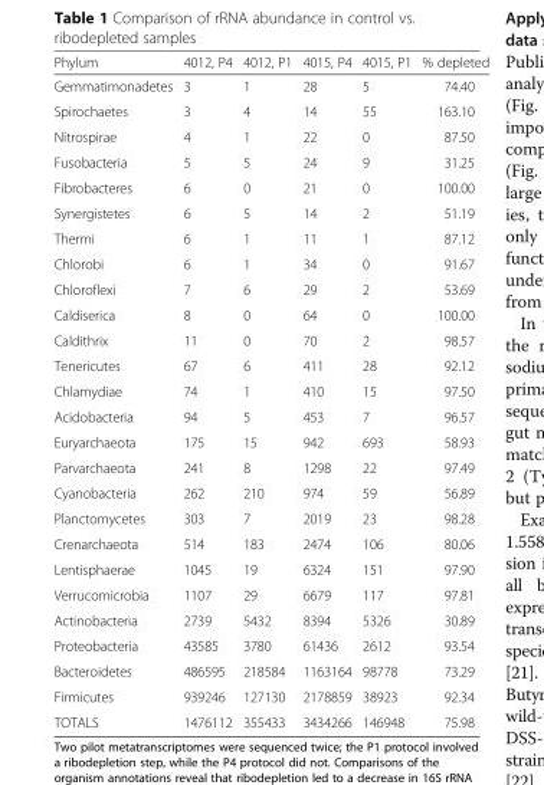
<table><thead><tr><td>Phylum</td><td>4012, P4</td><td>4012, P1</td><td>4015, P4</td><td>4015, P1</td><td>% depleted</td></tr></thead><tbody><tr><td>Gemmatimonadetes</td><td>3</td><td>1</td><td>28</td><td>5</td><td>74.40</td></tr><tr><td>Spirochaetes</td><td>3</td><td>4</td><td>14</td><td>55</td><td>163.10</td></tr><tr><td>Nitrospirae</td><td>4</td><td>1</td><td>22</td><td>0</td><td>87.50</td></tr><tr><td>Fusobacteria</td><td>5</td><td>5</td><td>24</td><td>9</td><td>31.25</td></tr><tr><td>Fibrobacteres</td><td>6</td><td>0</td><td>21</td><td>0</td><td>100.00</td></tr><tr><td>Synergistetes</td><td>6</td><td>5</td><td>14</td><td>2</td><td>51.19</td></tr><tr><td>Thermi</td><td>6</td><td>1</td><td>11</td><td>1</td><td>87.12</td></tr><tr><td>Chlorobi</td><td>6</td><td>1</td><td>34</td><td>0</td><td>91.67</td></tr><tr><td>Chloroflexi</td><td>7</td><td>6</td><td>29</td><td>2</td><td>53.69</td></tr><tr><td>Caldiserica</td><td>8</td><td>0</td><td>64</td><td>0</td><td>100.00</td></tr><tr><td>Caldithrix</td><td>11</td><td>0</td><td>70</td><td>2</td><td>98.57</td></tr><tr><td>Tenericutes</td><td>67</td><td>6</td><td>411</td><td>28</td><td>92.12</td></tr><tr><td>Chlamydiae</td><td>74</td><td>1</td><td>410</td><td>15</td><td>97.50</td></tr><tr><td>Acidobacteria</td><td>94</td><td>5</td><td>453</td><td>7</td><td>96.57</td></tr><tr><td>Euryarchaeota</td><td>175</td><td>15</td><td>942</td><td>693</td><td>58.93</td></tr><tr><td>Parvarchaeota</td><td>241</td><td>8</td><td>1298</td><td>22</td><td>97.49</td></tr><tr><td>Cyanobacteria</td><td>262</td><td>210</td><td>974</td><td>59</td><td>56.89</td></tr><tr><td>Planctomycetes</td><td>303</td><td>7</td><td>2019</td><td>23</td><td>98.28</td></tr><tr><td>Crenarchaeota</td><td>514</td><td>183</td><td>2474</td><td>106</td><td>80.06</td></tr><tr><td>Lentisphaerae</td><td>1045</td><td>19</td><td>6324</td><td>151</td><td>97.90</td></tr><tr><td>Verrucomicrobia</td><td>1107</td><td>29</td><td>6679</td><td>117</td><td>97.81</td></tr><tr><td>Actinobacteria</td><td>2739</td><td>5432</td><td>8394</td><td>5326</td><td>30.89</td></tr><tr><td>Proteobacteria</td><td>43585</td><td>3780</td><td>61436</td><td>2612</td><td>93.54</td></tr><tr><td>Bacteroidetes</td><td>486595</td><td>218584</td><td>1163164</td><td>98778</td><td>73.29</td></tr><tr><td>Firmicutes</td><td>939246</td><td>127130</td><td>2178859</td><td>38923</td><td>92.34</td></tr><tr><td>TOTALS</td><td>1476112</td><td>355433</td><td>3434266</td><td>146948</td><td>75.98</td></tr></tbody></table>